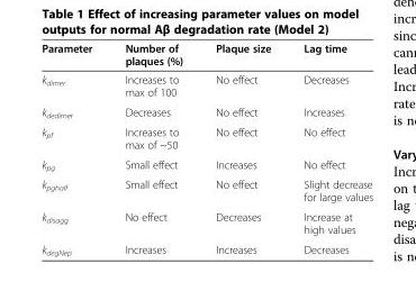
<table><thead><tr><td>Parameter</td><td>Number of plaques (%)</td><td>Plaque size</td><td>Lag time</td></tr></thead><tbody><tr><td>k<sub>dimer</sub></td><td>Increases to max of 100</td><td>No effect</td><td>Decreases</td></tr><tr><td>k<sub>dedimer</sub></td><td>Decreases</td><td>No effect</td><td>Increases</td></tr><tr><td>k<sub>pf</sub></td><td>Increases to max of ~50</td><td>No effect</td><td>No effect</td></tr><tr><td>k<sub>pg</sub></td><td>Small effect</td><td>Increases</td><td>No effect</td></tr><tr><td>k<sub>pghalf</sub></td><td>Small effect</td><td>No effect</td><td>Slight decrease for large values</td></tr><tr><td>k<sub>disagg</sub></td><td>No effect</td><td>Decreases</td><td>Increase at high values</td></tr><tr><td>k<sub>degNep</sub></td><td>Increases</td><td>Increases</td><td>Decreases</td></tr></tbody></table>